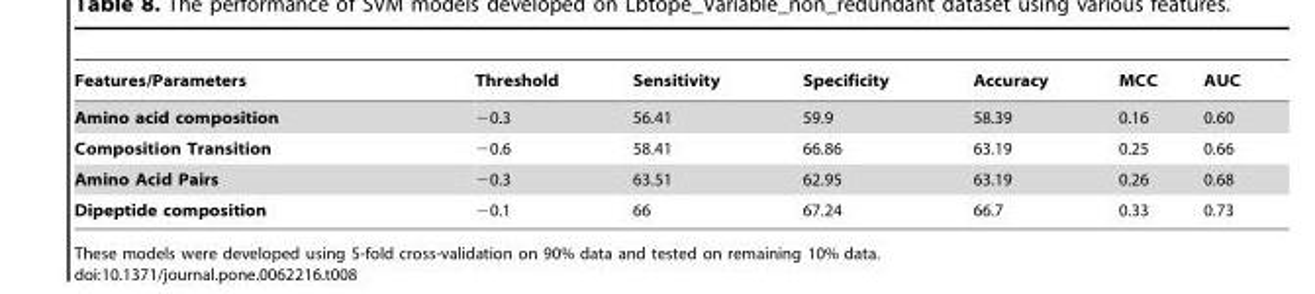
<table><thead><tr><td>Features/Parameters</td><td>Threshold</td><td>Sensitivity</td><td>Specificity</td><td>Accuracy</td><td>MCC</td><td>AUC</td></tr></thead><tbody><tr><td>Amino acid composition</td><td>−0.3</td><td>56.41</td><td>59.9</td><td>58.39</td><td>0.16</td><td>0.60</td></tr><tr><td>Composition Transition</td><td>−0.6</td><td>58.41</td><td>66.86</td><td>63.19</td><td>0.25</td><td>0.66</td></tr><tr><td>Amino Acid Pairs</td><td>−0.3</td><td>63.51</td><td>62.95</td><td>63.19</td><td>0.26</td><td>0.68</td></tr><tr><td>Dipeptide composition</td><td>−0.1</td><td>66</td><td>67.24</td><td>66.7</td><td>0.33</td><td>0.73</td></tr></tbody></table>